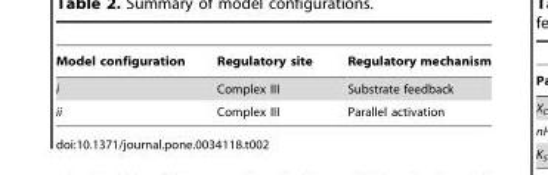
<table><thead><tr><td>Model configuration</td><td>Regulatory site</td><td>Regulatory mechanism</td></tr></thead><tbody><tr><td>i</td><td>Complex III</td><td>Substrate feedback</td></tr><tr><td>ii</td><td>Complex III</td><td>Parallel activation</td></tr></tbody></table>